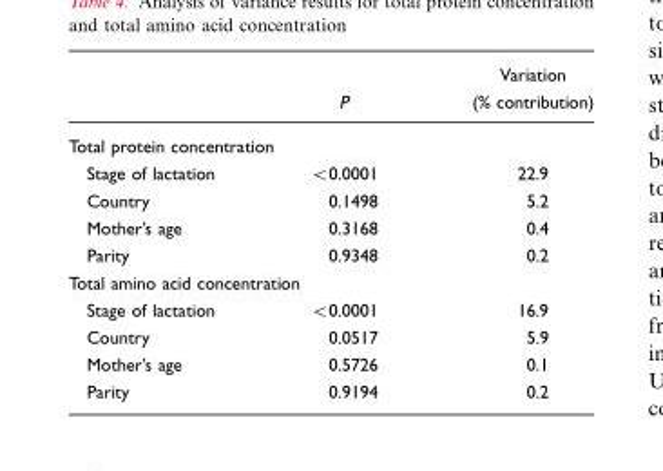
<table><thead><tr><td></td><td>P</td><td>Variation (% contribution)</td></tr></thead><tbody><tr><td colspan="3">Total protein concentration</td></tr><tr><td>Stage of lactation</td><td>&lt;0.0001</td><td>22.9</td></tr><tr><td>Country</td><td>0.1498</td><td>5.2</td></tr><tr><td>Mother’s age</td><td>0.3168</td><td>0.4</td></tr><tr><td>Parity</td><td>0.9348</td><td>0.2</td></tr><tr><td colspan="3">Total amino acid concentration</td></tr><tr><td>Stage of lactation</td><td>&lt;0.0001</td><td>16.9</td></tr><tr><td>Country</td><td>0.0517</td><td>5.9</td></tr><tr><td>Mother’s age</td><td>0.5726</td><td>0.1</td></tr><tr><td>Parity</td><td>0.9194</td><td>0.2</td></tr></tbody></table>